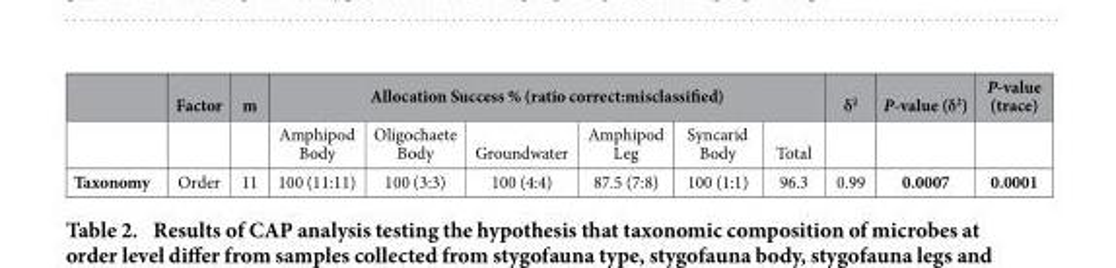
<table><thead><tr><td rowspan="2"></td><td rowspan="2">Factor</td><td rowspan="2">m</td><td colspan="6">Allocation Success % (ratio correct:misclassified)</td><td rowspan="2">δ<sup>2</sup></td><td rowspan="2">P-value (δ<sup>2</sup>)</td><td rowspan="2">P-value (trace)</td></tr><tr><td>Amphipod Body</td><td>Oligochaete Body</td><td>Groundwater</td><td>Amphipod Leg</td><td>Syncarid Body</td><td>Total</td></tr></thead><tbody><tr><td>Taxonomy</td><td>Order</td><td>11</td><td>100 (11:11)</td><td>100 (3:3)</td><td>100 (4:4)</td><td>87.5 (7:8)</td><td>100 (1:1)</td><td>96.3</td><td>0.99</td><td>0.0007</td><td>0.0001</td></tr></tbody></table>